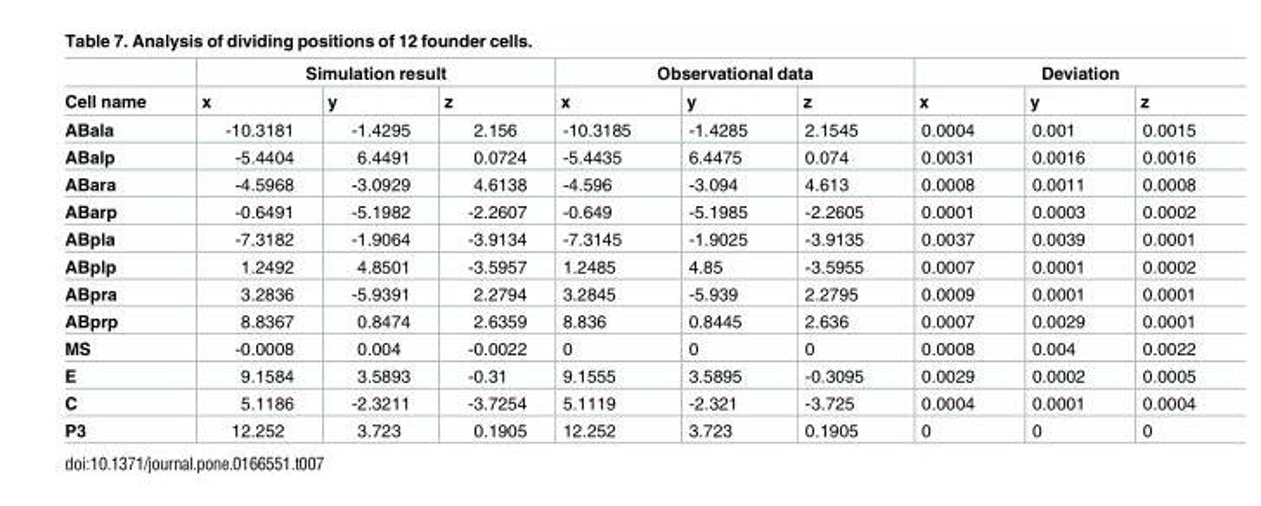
<table><thead><tr><td rowspan="2">Cell name</td><td colspan="3">Simulation result</td><td colspan="3">Observational data</td><td colspan="3">Deviation</td></tr><tr><td>x</td><td>y</td><td>z</td><td>x</td><td>y</td><td>z</td><td>x</td><td>y</td><td>z</td></tr></thead><tbody><tr><td>ABala</td><td>-10.3181</td><td>-1.4295</td><td>2.156</td><td>-10.3185</td><td>-1.4285</td><td>2.1545</td><td>0.0004</td><td>0.001</td><td>0.0015</td></tr><tr><td>ABalp</td><td>-5.4404</td><td>6.4491</td><td>0.0724</td><td>-5.4435</td><td>6.4475</td><td>0.074</td><td>0.0031</td><td>0.0016</td><td>0.0016</td></tr><tr><td>ABara</td><td>-4.5968</td><td>-3.0929</td><td>4.6138</td><td>-4.596</td><td>-3.094</td><td>4.613</td><td>0.0008</td><td>0.0011</td><td>0.0008</td></tr><tr><td>ABarp</td><td>-0.6491</td><td>-5.1982</td><td>-2.2607</td><td>-0.649</td><td>-5.1985</td><td>-2.2605</td><td>0.0001</td><td>0.0003</td><td>0.0002</td></tr><tr><td>ABpla</td><td>-7.3182</td><td>-1.9064</td><td>-3.9134</td><td>-7.3145</td><td>-1.9025</td><td>-3.9135</td><td>0.0037</td><td>0.0039</td><td>0.0001</td></tr><tr><td>ABplp</td><td>1.2492</td><td>4.8501</td><td>-3.5957</td><td>1.2485</td><td>4.85</td><td>-3.5955</td><td>0.0007</td><td>0.0001</td><td>0.0002</td></tr><tr><td>ABpra</td><td>3.2836</td><td>-5.9391</td><td>2.2794</td><td>3.2845</td><td>-5.939</td><td>2.2795</td><td>0.0009</td><td>0.0001</td><td>0.0001</td></tr><tr><td>ABprp</td><td>8.8367</td><td>0.8474</td><td>2.6359</td><td>8.836</td><td>0.8445</td><td>2.636</td><td>0.0007</td><td>0.0029</td><td>0.0001</td></tr><tr><td>MS</td><td>-0.0008</td><td>0.004</td><td>-0.0022</td><td>0</td><td>0</td><td>0</td><td>0.0008</td><td>0.004</td><td>0.0022</td></tr><tr><td>E</td><td>9.1584</td><td>3.5893</td><td>-0.31</td><td>9.1555</td><td>3.5895</td><td>-0.3095</td><td>0.0029</td><td>0.0002</td><td>0.0005</td></tr><tr><td>C</td><td>5.1186</td><td>-2.3211</td><td>-3.7254</td><td>5.1119</td><td>-2.321</td><td>-3.725</td><td>0.0004</td><td>0.0001</td><td>0.0004</td></tr><tr><td>P3</td><td>12.252</td><td>3.723</td><td>0.1905</td><td>12.252</td><td>3.723</td><td>0.1905</td><td>0</td><td>0</td><td>0</td></tr></tbody></table>